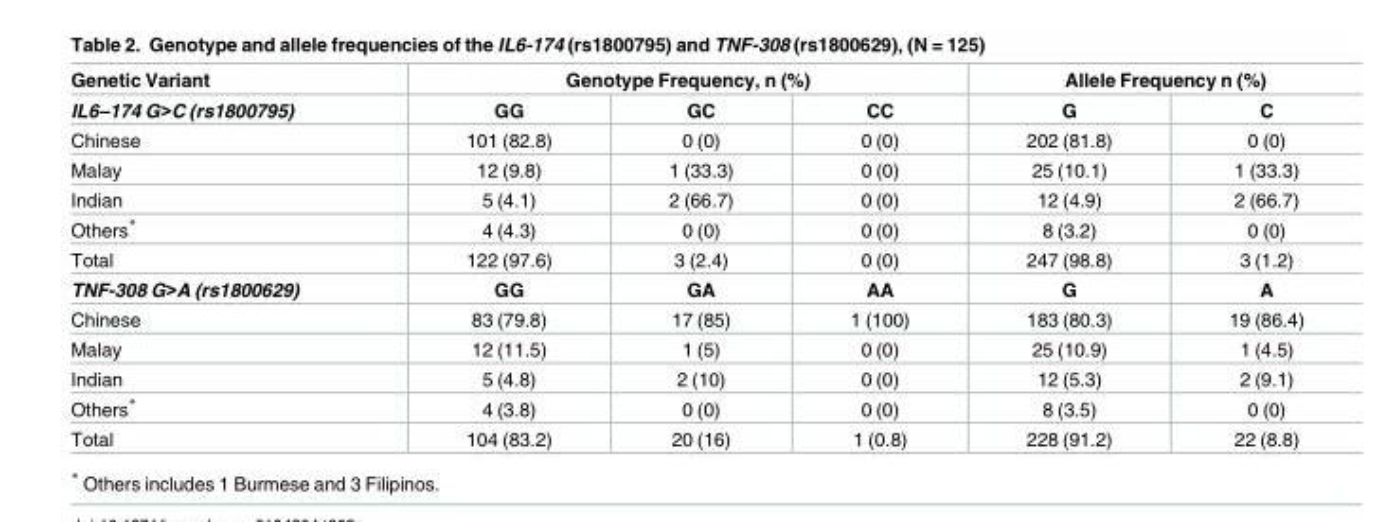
<table><thead><tr><td rowspan="2">Genetic Variant IL6–174 G&gt;C (rs1800795)</td><td colspan="3">Genotype Frequency, n (%)</td><td colspan="2">Allele Frequency n (%)</td></tr><tr><td>GG</td><td>GC</td><td>CC</td><td>G</td><td>C</td></tr></thead><tbody><tr><td>Chinese</td><td>101 (82.8)</td><td>0 (0)</td><td>0 (0)</td><td>202 (81.8)</td><td>0 (0)</td></tr><tr><td>Malay</td><td>12 (9.8)</td><td>1 (33.3)</td><td>0 (0)</td><td>25 (10.1)</td><td>1 (33.3)</td></tr><tr><td>Indian</td><td>5 (4.1)</td><td>2 (66.7)</td><td>0 (0)</td><td>12 (4.9)</td><td>2 (66.7)</td></tr><tr><td>Others*</td><td>4 (4.3)</td><td>0 (0)</td><td>0 (0)</td><td>8 (3.2)</td><td>0 (0)</td></tr><tr><td>Total</td><td>122 (97.6)</td><td>3 (2.4)</td><td>0 (0)</td><td>247 (98.8)</td><td>3 (1.2)</td></tr><tr><td>TNF-308 G&gt;A (rs1800629)</td><td>GG</td><td>GA</td><td>AA</td><td>G</td><td>A</td></tr><tr><td>Chinese</td><td>83 (79.8)</td><td>17 (85)</td><td>1 (100)</td><td>183 (80.3)</td><td>19 (86.4)</td></tr><tr><td>Malay</td><td>12 (11.5)</td><td>1 (5)</td><td>0 (0)</td><td>25 (10.9)</td><td>1 (4.5)</td></tr><tr><td>Indian</td><td>5 (4.8)</td><td>2 (10)</td><td>0 (0)</td><td>12 (5.3)</td><td>2 (9.1)</td></tr><tr><td>Others*</td><td>4 (3.8)</td><td>0 (0)</td><td>0 (0)</td><td>8 (3.5)</td><td>0 (0)</td></tr><tr><td>Total</td><td>104 (83.2)</td><td>20 (16)</td><td>1 (0.8)</td><td>228 (91.2)</td><td>22 (8.8)</td></tr></tbody></table>